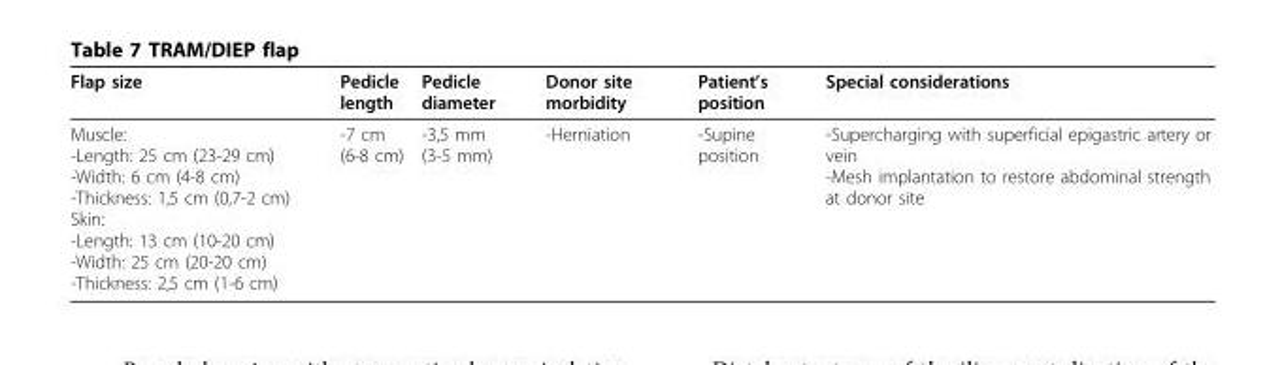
<table><thead><tr><td>Flap size</td><td>Pedicle length</td><td>Pedicle diameter</td><td>Donor site morbidity</td><td>Patient’s position</td><td>Special considerations</td></tr></thead><tbody><tr><td>Muscle: -Length: 25 cm (23-29 cm) -Width: 6 cm (4-8 cm) -Thickness: 1,5 cm (0,7-2 cm) Skin: -Length: 13 cm (10-20 cm) -Width: 25 cm (20-20 cm) -Thickness: 2,5 cm (1-6 cm)</td><td>-7 cm (6-8 cm)</td><td>-3,5 mm (3-5 mm)</td><td>-Herniation</td><td>-Supine position</td><td>-Supercharging with superficial epigastric artery or vein -Mesh implantation to restore abdominal strength at donor site</td></tr></tbody></table>